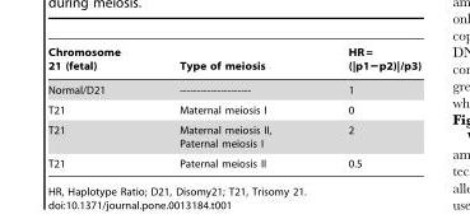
<table><thead><tr><td>Chromosome 21 (fetal)</td><td>Type of meiosis</td><td>HR = (|p1−p2)|/p3)</td></tr></thead><tbody><tr><td>Normal/D21</td><td>---------------------</td><td>1</td></tr><tr><td>T21</td><td>Maternal meiosis I</td><td>0</td></tr><tr><td>T21</td><td>Maternal meiosis II, Paternal meiosis I</td><td>2</td></tr><tr><td>T21</td><td>Paternal meiosis II</td><td>0.5</td></tr></tbody></table>